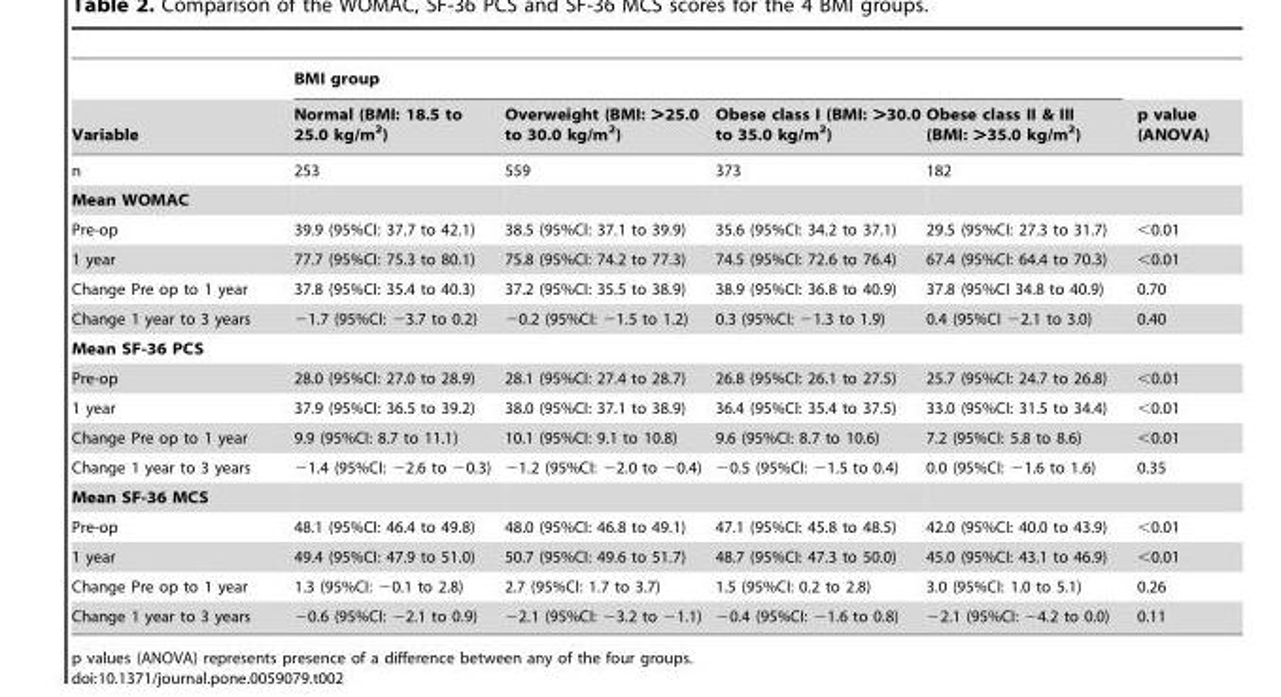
<table><thead><tr><td rowspan="2">Variable</td><td colspan="4">BMI group</td><td rowspan="2">p value (ANOVA)</td></tr><tr><td>Normal (BMI: 18.5 to 25.0 kg/m<sup>2</sup>)</td><td>Overweight (BMI: &gt;25.0 to 30.0 kg/m<sup>2</sup>)</td><td>Obese class I (BMI: &gt;30.0 to 35.0 kg/m<sup>2</sup>)</td><td>Obese class II &amp; III (BMI: &gt;35.0 kg/m<sup>2</sup>)</td></tr></thead><tbody><tr><td>n</td><td>253</td><td>559</td><td>373</td><td>182</td><td></td></tr><tr><td colspan="6">Mean WOMAC</td></tr><tr><td>Pre-op</td><td>39.9 (95%CI: 37.7 to 42.1)</td><td>38.5 (95%CI: 37.1 to 39.9)</td><td>35.6 (95%CI: 34.2 to 37.1)</td><td>29.5 (95%CI: 27.3 to 31.7)</td><td>&lt;0.01</td></tr><tr><td>1 year</td><td>77.7 (95%CI: 75.3 to 80.1)</td><td>75.8 (95%CI: 74.2 to 77.3)</td><td>74.5 (95%CI: 72.6 to 76.4)</td><td>67.4 (95%CI: 64.4 to 70.3)</td><td>&lt;0.01</td></tr><tr><td>Change Pre op to 1 year</td><td>37.8 (95%CI: 35.4 to 40.3)</td><td>37.2 (95%CI: 35.5 to 38.9)</td><td>38.9 (95%CI: 36.8 to 40.9)</td><td>37.8 (95%CI 34.8 to 40.9)</td><td>0.70</td></tr><tr><td>Change 1 year to 3 years</td><td>−1.7 (95%CI: −3.7 to 0.2)</td><td>−0.2 (95%CI: −1.5 to 1.2)</td><td>0.3 (95%CI: −1.3 to 1.9)</td><td>0.4 (95%CI −2.1 to 3.0)</td><td>0.40</td></tr><tr><td colspan="6">Mean SF-36 PCS</td></tr><tr><td>Pre-op</td><td>28.0 (95%CI: 27.0 to 28.9)</td><td>28.1 (95%CI: 27.4 to 28.7)</td><td>26.8 (95%CI: 26.1 to 27.5)</td><td>25.7 (95%CI: 24.7 to 26.8)</td><td>&lt;0.01</td></tr><tr><td>1 year</td><td>37.9 (95%CI: 36.5 to 39.2)</td><td>38.0 (95%CI: 37.1 to 38.9)</td><td>36.4 (95%CI: 35.4 to 37.5)</td><td>33.0 (95%CI: 31.5 to 34.4)</td><td>&lt;0.01</td></tr><tr><td>Change Pre op to 1 year</td><td>9.9 (95%CI: 8.7 to 11.1)</td><td>10.1 (95%CI: 9.1 to 10.8)</td><td>9.6 (95%CI: 8.7 to 10.6)</td><td>7.2 (95%CI: 5.8 to 8.6)</td><td>&lt;0.01</td></tr><tr><td>Change 1 year to 3 years</td><td>−1.4 (95%CI: −2.6 to −0.3)</td><td>−1.2 (95%CI: −2.0 to −0.4)</td><td>−0.5 (95%CI: −1.5 to 0.4)</td><td>0.0 (95%CI: −1.6 to 1.6)</td><td>0.35</td></tr><tr><td colspan="6">Mean SF-36 MCS</td></tr><tr><td>Pre-op</td><td>48.1 (95%CI: 46.4 to 49.8)</td><td>48.0 (95%CI: 46.8 to 49.1)</td><td>47.1 (95%CI: 45.8 to 48.5)</td><td>42.0 (95%CI: 40.0 to 43.9)</td><td>&lt;0.01</td></tr><tr><td>1 year</td><td>49.4 (95%CI: 47.9 to 51.0)</td><td>50.7 (95%CI: 49.6 to 51.7)</td><td>48.7 (95%CI: 47.3 to 50.0)</td><td>45.0 (95%CI: 43.1 to 46.9)</td><td>&lt;0.01</td></tr><tr><td>Change Pre op to 1 year</td><td>1.3 (95%CI: −0.1 to 2.8)</td><td>2.7 (95%CI: 1.7 to 3.7)</td><td>1.5 (95%CI: 0.2 to 2.8)</td><td>3.0 (95%CI: 1.0 to 5.1)</td><td>0.26</td></tr><tr><td>Change 1 year to 3 years</td><td>−0.6 (95%CI: −2.1 to 0.9)</td><td>−2.1 (95%CI: −3.2 to −1.1)</td><td>−0.4 (95%CI: −1.6 to 0.8)</td><td>−2.1 (95%CI: −4.2 to 0.0)</td><td>0.11</td></tr></tbody></table>